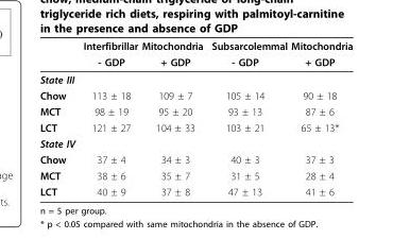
<table><thead><tr><td rowspan="2"></td><td colspan="2">Interfibrillar Mitochondria</td><td colspan="2">Subsarcolemmal Mitochondria</td></tr><tr><td>- GDP</td><td>+ GDP</td><td>- GDP</td><td>+ GDP</td></tr></thead><tbody><tr><td colspan="5">State III</td></tr><tr><td>Chow</td><td>113 ± 18</td><td>109 ± 7</td><td>105 ± 14</td><td>90 ± 18</td></tr><tr><td>MCT</td><td>98 ± 19</td><td>95 ± 20</td><td>93 ± 13</td><td>87 ± 6</td></tr><tr><td>LCT</td><td>121 ± 27</td><td>104 ± 33</td><td>103 ± 21</td><td>65 ± 13*</td></tr><tr><td colspan="5">State IV</td></tr><tr><td>Chow</td><td>37 ± 4</td><td>34 ± 3</td><td>40 ± 3</td><td>37 ± 3</td></tr><tr><td>MCT</td><td>38 ± 6</td><td>35 ± 7</td><td>31 ± 5</td><td>28 ± 4</td></tr><tr><td>LCT</td><td>40 ± 9</td><td>37 ± 8</td><td>47 ± 13</td><td>41 ± 6</td></tr></tbody></table>